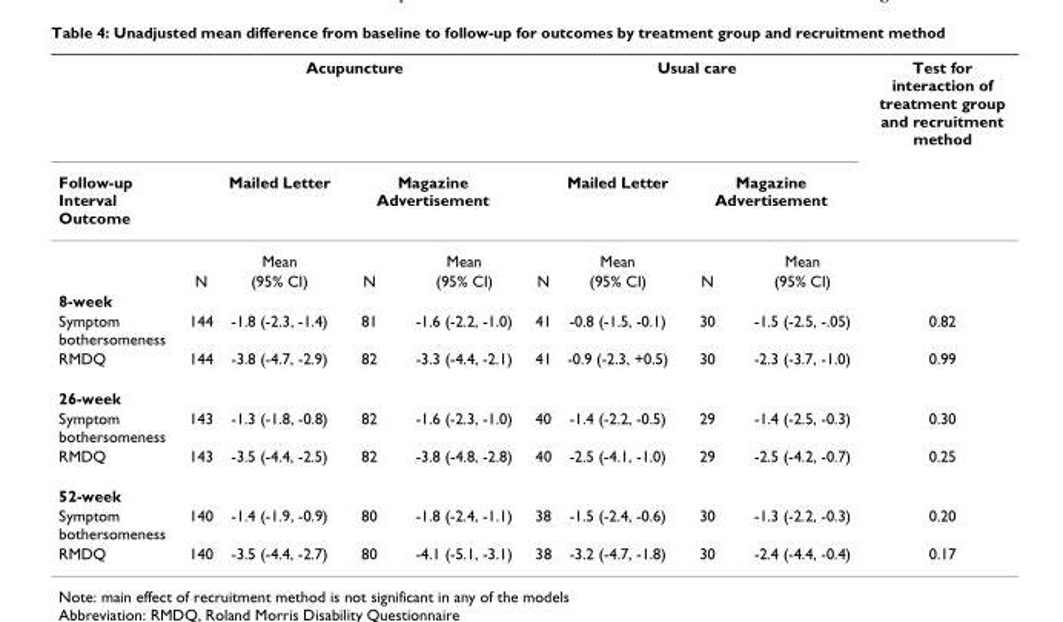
<table><thead><tr><td rowspan="3">Follow-up Interval Outcome</td><td colspan="4">Acupuncture</td><td colspan="4">Usual care</td><td rowspan="3">Test for interaction of treatment group and recruitment method</td></tr><tr><td rowspan="2"></td><td rowspan="2">Mailed Letter Mean</td><td colspan="2">Magazine Advertisement</td><td rowspan="2"></td><td rowspan="2">Mailed Letter Mean</td><td colspan="2">Magazine Advertisement</td></tr><tr><td></td><td>Mean</td><td></td><td>Mean</td></tr></thead><tbody><tr><td></td><td>N</td><td>(95% CI)</td><td>N</td><td>(95% CI)</td><td>N</td><td>(95% CI)</td><td>N</td><td>(95% CI)</td><td></td></tr><tr><td colspan="10">8-week</td></tr><tr><td>Symptom bothersomeness</td><td>144</td><td>-1.8 (-2.3, -1.4)</td><td>81</td><td>-1.6 (-2.2, -1.0)</td><td>41</td><td>-0.8 (-1.5, -0.1)</td><td>30</td><td>-1.5 (-2.5, -.05)</td><td>0.82</td></tr><tr><td>RMDQ</td><td>144</td><td>-3.8 (-4.7, -2.9)</td><td>82</td><td>-3.3 (-4.4, -2.1)</td><td>41</td><td>-0.9 (-2.3, +0.5)</td><td>30</td><td>-2.3 (-3.7, -1.0)</td><td>0.99</td></tr><tr><td colspan="10">26-week</td></tr><tr><td>Symptom bothersomeness</td><td>143</td><td>-1.3 (-1.8, -0.8)</td><td>82</td><td>-1.6 (-2.3, -1.0)</td><td>40</td><td>-1.4 (-2.2, -0.5)</td><td>29</td><td>-1.4 (-2.5, -0.3)</td><td>0.30</td></tr><tr><td>RMDQ</td><td>143</td><td>-3.5 (-4.4, -2.5)</td><td>82</td><td>-3.8 (-4.8, -2.8)</td><td>40</td><td>-2.5 (-4.1, -1.0)</td><td>29</td><td>-2.5 (-4.2, -0.7)</td><td>0.25</td></tr><tr><td colspan="10">52-week</td></tr><tr><td>Symptom bothersomeness</td><td>140</td><td>-1.4 (-1.9, -0.9)</td><td>80</td><td>-1.8 (-2.4, -1.1)</td><td>38</td><td>-1.5 (-2.4, -0.6)</td><td>30</td><td>-1.3 (-2.2, -0.3)</td><td>0.20</td></tr><tr><td>RMDQ</td><td>140</td><td>-3.5 (-4.4, -2.7)</td><td>80</td><td>-4.1 (-5.1, -3.1)</td><td>38</td><td>-3.2 (-4.7, -1.8)</td><td>30</td><td>-2.4 (-4.4, -0.4)</td><td>0.17</td></tr></tbody></table>